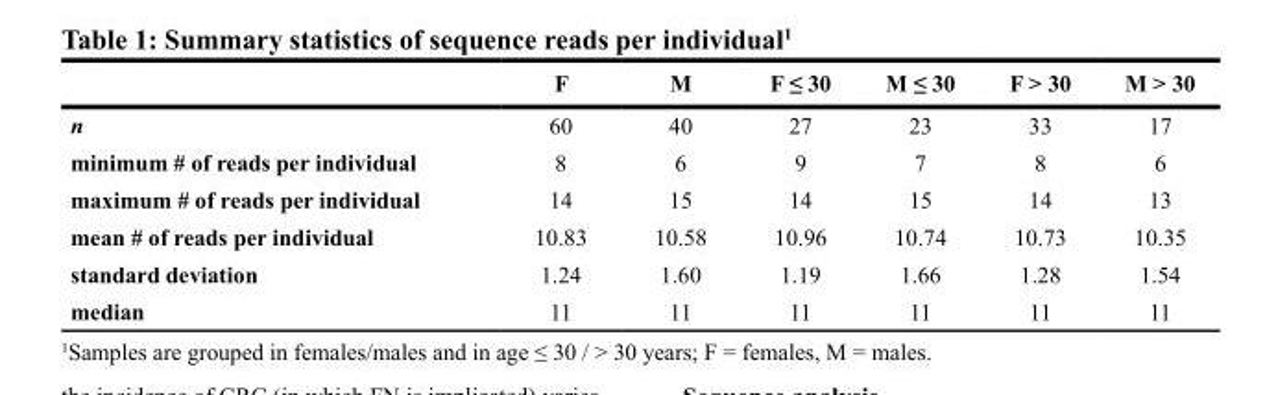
<table><thead><tr><td></td><td>F</td><td>M</td><td>F ≤ 30</td><td>M ≤ 30</td><td>F &gt; 30</td><td>M &gt; 30</td></tr></thead><tbody><tr><td>n</td><td>60</td><td>40</td><td>27</td><td>23</td><td>33</td><td>17</td></tr><tr><td>minimum # of reads per individual</td><td>8</td><td>6</td><td>9</td><td>7</td><td>8</td><td>6</td></tr><tr><td>maximum # of reads per individual</td><td>14</td><td>15</td><td>14</td><td>15</td><td>14</td><td>13</td></tr><tr><td>mean # of reads per individual</td><td>10.83</td><td>10.58</td><td>10.96</td><td>10.74</td><td>10.73</td><td>10.35</td></tr><tr><td>standard deviation</td><td>1.24</td><td>1.60</td><td>1.19</td><td>1.66</td><td>1.28</td><td>1.54</td></tr><tr><td>median</td><td>11</td><td>11</td><td>11</td><td>11</td><td>11</td><td>11</td></tr></tbody></table>